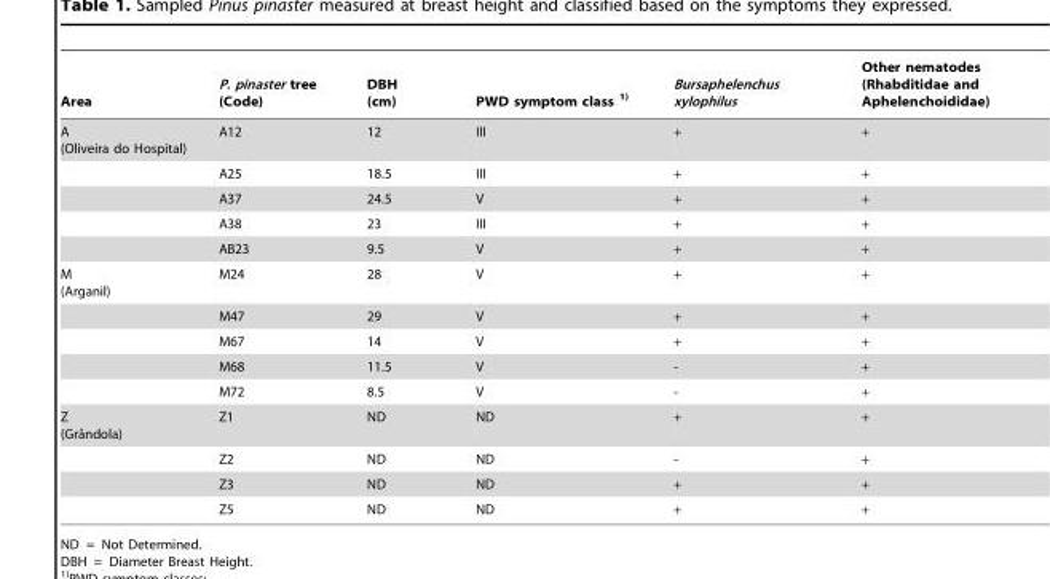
<table><thead><tr><td>Area</td><td>P. pinaster tree (Code)</td><td>DBH (cm)</td><td>PWD symptom class 1)</td><td>Bursaphelenchus xylophilus</td><td>Other nematodes (Rhabditidae and Aphelenchoididae)</td></tr></thead><tbody><tr><td rowspan="5">A (Oliveira do Hospital)</td><td>A12</td><td>12</td><td>III</td><td>+</td><td>+</td></tr><tr><td>A25</td><td>18.5</td><td>III</td><td>+</td><td>+</td></tr><tr><td>A37</td><td>24.5</td><td>V</td><td>+</td><td>+</td></tr><tr><td>A38</td><td>23</td><td>III</td><td>+</td><td>+</td></tr><tr><td>AB23</td><td>9.5</td><td>V</td><td>+</td><td>+</td></tr><tr><td rowspan="5">M (Arganil)</td><td>M24</td><td>28</td><td>V</td><td>+</td><td>+</td></tr><tr><td>M47</td><td>29</td><td>V</td><td>+</td><td>+</td></tr><tr><td>M67</td><td>14</td><td>V</td><td>+</td><td>+</td></tr><tr><td>M68</td><td>11.5</td><td>V</td><td>-</td><td>+</td></tr><tr><td>M72</td><td>8.5</td><td>V</td><td>-</td><td>+</td></tr><tr><td rowspan="4">Z (Graˆndola)</td><td>Z1</td><td>ND</td><td>ND</td><td>+</td><td>+</td></tr><tr><td>Z2</td><td>ND</td><td>ND</td><td>-</td><td>+</td></tr><tr><td>Z3</td><td>ND</td><td>ND</td><td>+</td><td>+</td></tr><tr><td>Z5</td><td>ND</td><td>ND</td><td>+</td><td>+</td></tr></tbody></table>